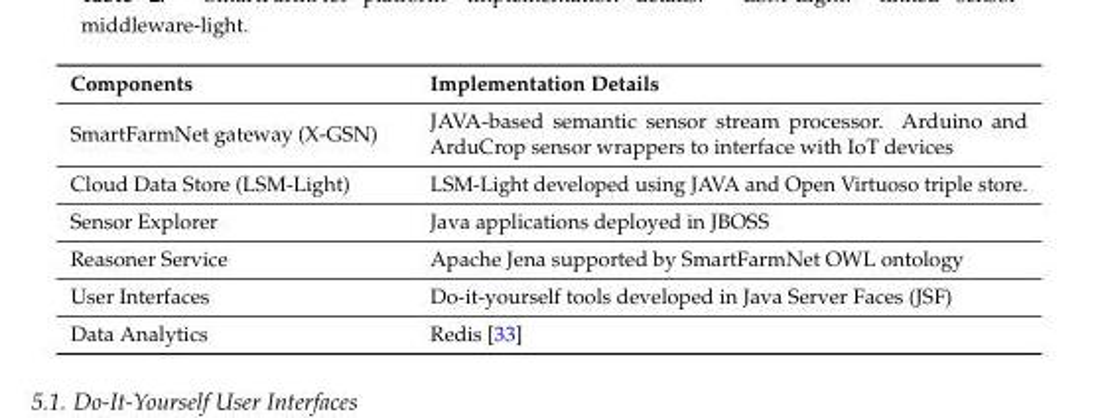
<table><thead><tr><td>Components</td><td>Implementation Details</td></tr></thead><tbody><tr><td>SmartFarmNet gateway (X-GSN)</td><td>JAVA-based semantic sensor stream processor. Arduino and ArduCrop sensor wrappers to interface with IoT devices</td></tr><tr><td>Cloud Data Store (LSM-Light)</td><td>LSM-Light developed using JAVA and Open Virtuoso triple store.</td></tr><tr><td>Sensor Explorer</td><td>Java applications deployed in JBOSS</td></tr><tr><td>Reasoner Service</td><td>Apache Jena supported by SmartFarmNet OWL ontology</td></tr><tr><td>User Interfaces</td><td>Do-it-yourself tools developed in Java Server Faces (JSF)</td></tr><tr><td>Data Analytics</td><td>Redis [33]</td></tr></tbody></table>